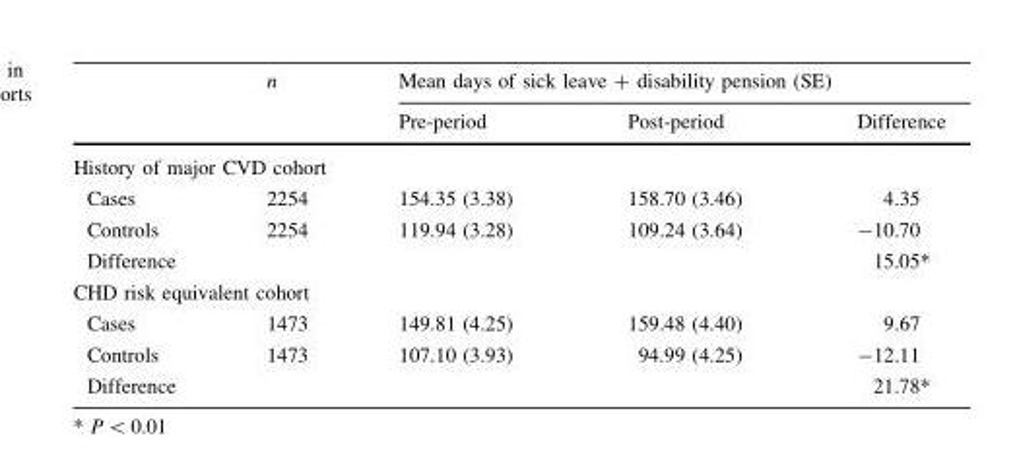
<table><thead><tr><td rowspan="2"></td><td rowspan="2">n</td><td colspan="3">Mean days of sick leave + disability pension (SE)</td></tr><tr><td>Pre-period</td><td>Post-period</td><td>Difference</td></tr></thead><tbody><tr><td colspan="5">History of major CVD cohort</td></tr><tr><td>Cases</td><td>2254</td><td>154.35 (3.38)</td><td>158.70 (3.46)</td><td>4.35</td></tr><tr><td>Controls</td><td>2254</td><td>119.94 (3.28)</td><td>109.24 (3.64)</td><td>-10.70</td></tr><tr><td>Difference</td><td></td><td></td><td></td><td>15.05*</td></tr><tr><td colspan="5">CHD risk equivalent cohort</td></tr><tr><td>Cases</td><td>1473</td><td>149.81 (4.25)</td><td>159.48 (4.40)</td><td>9.67</td></tr><tr><td>Controls</td><td>1473</td><td>107.10 (3.93)</td><td>94.99 (4.25)</td><td>-12.11</td></tr><tr><td>Difference</td><td></td><td></td><td></td><td>21.78*</td></tr></tbody></table>